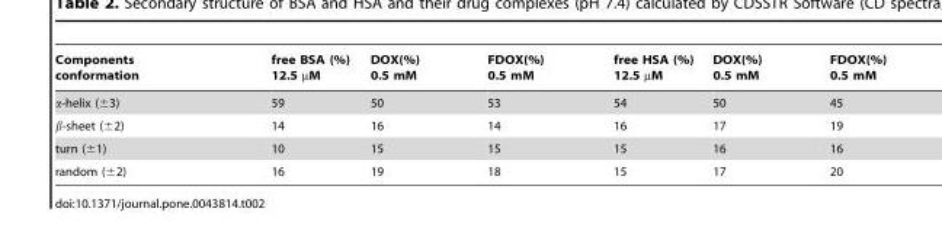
<table><thead><tr><td>Components conformation</td><td>free BSA (%) 12.5 µM</td><td>DOX(%) 0.5 mM</td><td>FDOX(%) 0.5 mM</td><td>free HSA (%) 12.5 µM</td><td>DOX(%) 0.5 mM</td><td>FDOX(%) 0.5 mM</td></tr></thead><tbody><tr><td>α-helix (±3)</td><td>59</td><td>50</td><td>53</td><td>54</td><td>50</td><td>45</td></tr><tr><td>β-sheet (±2)</td><td>14</td><td>16</td><td>14</td><td>16</td><td>17</td><td>19</td></tr><tr><td>turn (±1)</td><td>10</td><td>15</td><td>15</td><td>15</td><td>16</td><td>16</td></tr><tr><td>random (±2)</td><td>16</td><td>19</td><td>18</td><td>15</td><td>17</td><td>20</td></tr></tbody></table>